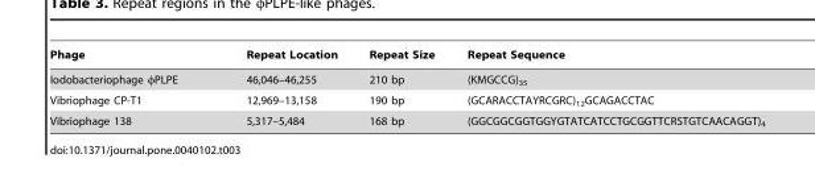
<table><thead><tr><td>Phage</td><td>Repeat Location</td><td>Repeat Size</td><td>Repeat Sequence</td></tr></thead><tbody><tr><td>Iodobacteriophage φPLPE</td><td>46,046–46,255</td><td>210 bp</td><td>(KMGCCG)<sub>35</sub></td></tr><tr><td>Vibriophage CP-T1</td><td>12,969–13,158</td><td>190 bp</td><td>(GCARACCTAYRCGRC)<sub>12</sub>GCAGACCTAC</td></tr><tr><td>Vibriophage 138</td><td>5,317–5,484</td><td>168 bp</td><td>(GGCGGCGGTGGYGTATCATCCTGCGGTTCRSTGTCAACAGGT)<sub>4</sub></td></tr></tbody></table>